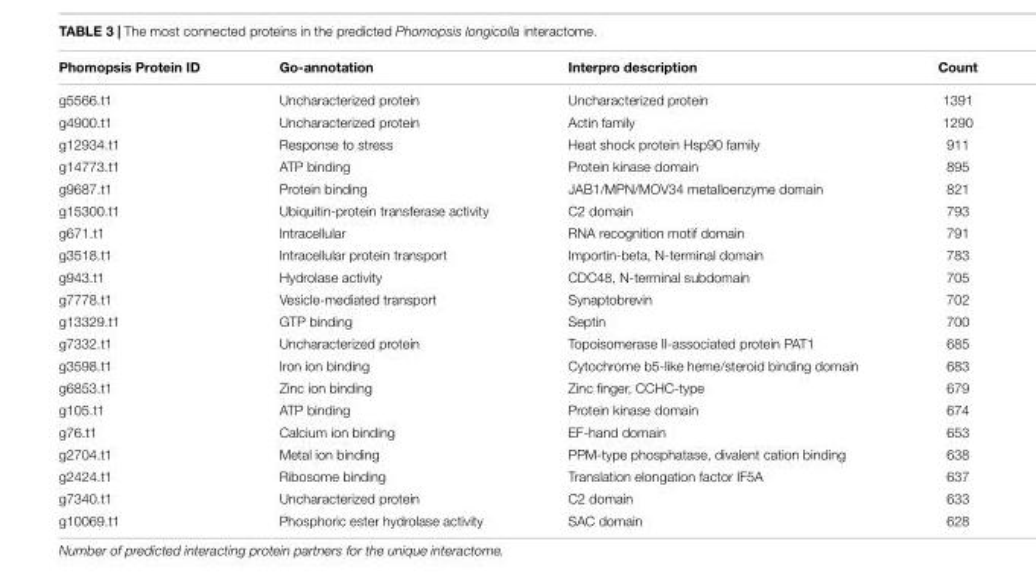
<table><thead><tr><td>Phomopsis Protein ID</td><td>Go-annotation</td><td>Interpro description</td><td>Count</td></tr></thead><tbody><tr><td>g5566.t1</td><td>Uncharacterized protein</td><td>Uncharacterized protein</td><td>1391</td></tr><tr><td>g4900.t1</td><td>Uncharacterized protein</td><td>Actin family</td><td>1290</td></tr><tr><td>g12934.t1</td><td>Response to stress</td><td>Heat shock protein Hsp90 family</td><td>911</td></tr><tr><td>g14773.t1</td><td>ATP binding</td><td>Protein kinase domain</td><td>895</td></tr><tr><td>g9687.t1</td><td>Protein binding</td><td>JAB1/MPN/MOV34 metalloenzyme domain</td><td>821</td></tr><tr><td>g15300.t1</td><td>Ubiquitin-protein transferase activity</td><td>C2 domain</td><td>793</td></tr><tr><td>g671.t1</td><td>Intracellular</td><td>RNA recognition motif domain</td><td>791</td></tr><tr><td>g3518.t1</td><td>Intracellular protein transport</td><td>Importin-beta, N-terminal domain</td><td>783</td></tr><tr><td>g943.t1</td><td>Hydrolase activity</td><td>CDC48, N-terminal subdomain</td><td>705</td></tr><tr><td>g7778.t1</td><td>Vesicle-mediated transport</td><td>Synaptobrevin</td><td>702</td></tr><tr><td>g13329.t1</td><td>GTP binding</td><td>Septin</td><td>700</td></tr><tr><td>g7332.t1</td><td>Uncharacterized protein</td><td>Topoisomerase II-associated protein PAT1</td><td>685</td></tr><tr><td>g3598.t1</td><td>Iron ion binding</td><td>Cytochrome b5-like heme/steroid binding domain</td><td>683</td></tr><tr><td>g6853.t1</td><td>Zinc ion binding</td><td>Zinc finger, CCHC-type</td><td>679</td></tr><tr><td>g105.t1</td><td>ATP binding</td><td>Protein kinase domain</td><td>674</td></tr><tr><td>g76.t1</td><td>Calcium ion binding</td><td>EF-hand domain</td><td>653</td></tr><tr><td>g2704.t1</td><td>Metal ion binding</td><td>PPM-type phosphatase, divalent cation binding</td><td>638</td></tr><tr><td>g2424.t1</td><td>Ribosome binding</td><td>Translation elongation factor IF5A</td><td>637</td></tr><tr><td>g7340.t1</td><td>Uncharacterized protein</td><td>C2 domain</td><td>633</td></tr><tr><td>g10069.t1</td><td>Phosphoric ester hydrolase activity</td><td>SAC domain</td><td>628</td></tr></tbody></table>